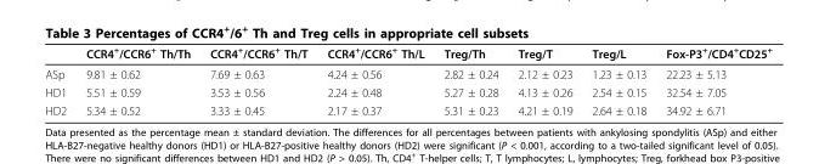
<table><thead><tr><td></td><td>CCR4+/CCR6+ Th/Th</td><td>CCR4+/CCR6+ Th/T</td><td>CCR4+/CCR6+ Th/L</td><td>Treg/Th</td><td>Treg/T</td><td>Treg/L</td><td>Fox-P3+/CD4+CD25+</td></tr></thead><tbody><tr><td>ASp</td><td>9.81 ± 0.62</td><td>7.69 ± 0.63</td><td>4.24 ± 0.56</td><td>2.82 ± 0.24</td><td>2.12 ± 0.23</td><td>1.23 ± 0.13</td><td>22.23 ± 5.13</td></tr><tr><td>HD1</td><td>5.51 ± 0.59</td><td>3.53 ± 0.56</td><td>2.24 ± 0.48</td><td>5.27 ± 0.28</td><td>4.13 ± 0.26</td><td>2.54 ± 0.15</td><td>32.54 ± 7.05</td></tr><tr><td>HD2</td><td>5.34 ± 0.52</td><td>3.33 ± 0.45</td><td>2.17 ± 0.37</td><td>5.31 ± 0.23</td><td>4.21 ± 0.19</td><td>2.64 ± 0.18</td><td>34.92 ± 6.71</td></tr></tbody></table>